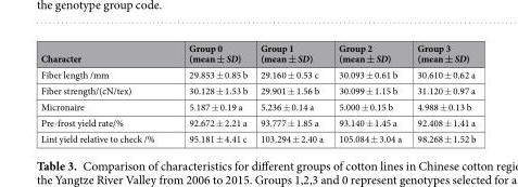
<table><thead><tr><td>Character</td><td>Group 0 (mean ± SD)</td><td>Group 1 (mean ± SD)</td><td>Group 2 (mean ± SD)</td><td>Group 3 (mean ± SD)</td></tr></thead><tbody><tr><td>Fiber length /mm</td><td>29.853 ± 0.85 b</td><td>29.160 ± 0.53 c</td><td>30.093 ± 0.61 b</td><td>30.610 ± 0.62 a</td></tr><tr><td>Fiber strength/(cN/tex)</td><td>30.128 ± 1.53 b</td><td>29.901 ± 1.56 b</td><td>30.099 ± 1.15 b</td><td>31.120 ± 0.97 a</td></tr><tr><td>Micronaire</td><td>5.187 ± 0.19 a</td><td>5.236 ± 0.14 a</td><td>5.000 ± 0.15 b</td><td>4.988 ± 0.13 b</td></tr><tr><td>Pre-frost yield rate/%</td><td>92.672 ± 2.21 a</td><td>93.777 ± 1.85 a</td><td>93.140 ± 1.45 a</td><td>92.408 ± 1.41 a</td></tr><tr><td>Lint yield relative to check /%</td><td>95.181 ± 4.41 c</td><td>103.294 ± 2.40 a</td><td>105.084 ± 3.04 a</td><td>98.268 ± 1.52 b</td></tr></tbody></table>